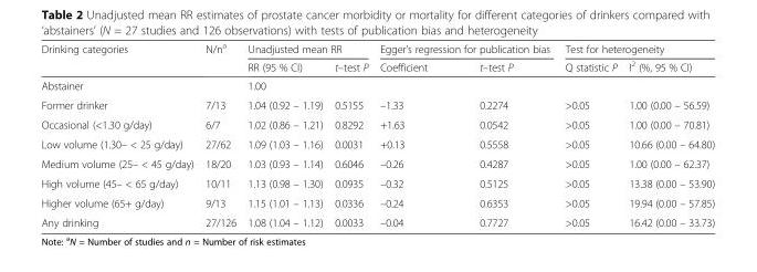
<table><thead><tr><td rowspan="2">Drinking categories</td><td rowspan="2">N/n<sup>a</sup></td><td colspan="2">Unadjusted mean RR</td><td colspan="2">Egger’s regression for publication bias</td><td colspan="2">Test for heterogeneity</td></tr><tr><td>RR (95 % CI)</td><td>t–test P</td><td>Coefficient</td><td>t–test P</td><td>Q statistic P</td><td>I<sup>2</sup> (%, 95 % CI)</td></tr></thead><tbody><tr><td>Abstainer</td><td></td><td>1.00</td><td></td><td></td><td></td><td></td><td></td></tr><tr><td>Former drinker</td><td>7/13</td><td>1.04 (0.92 – 1.19)</td><td>0.5155</td><td>–1.33</td><td>0.2274</td><td>&gt;0.05</td><td>1.00 (0.00 – 56.59)</td></tr><tr><td>Occasional (&lt;1.30 g/day)</td><td>6/7</td><td>1.02 (0.86 – 1.21)</td><td>0.8292</td><td>+1.63</td><td>0.0542</td><td>&gt;0.05</td><td>1.00 (0.00 – 70.81)</td></tr><tr><td>Low volume (1.30– &lt; 25 g/day)</td><td>27/62</td><td>1.09 (1.03 – 1.16)</td><td>0.0031</td><td>+0.13</td><td>0.5558</td><td>&gt;0.05</td><td>10.66 (0.00 – 64.80)</td></tr><tr><td>Medium volume (25– &lt; 45 g/day)</td><td>18/20</td><td>1.03 (0.93 – 1.14)</td><td>0.6046</td><td>–0.26</td><td>0.4287</td><td>&gt;0.05</td><td>1.00 (0.00 – 62.37)</td></tr><tr><td>High volume (45– &lt; 65 g/day)</td><td>10/11</td><td>1.13 (0.98 – 1.30)</td><td>0.0935</td><td>–0.32</td><td>0.5125</td><td>&gt;0.05</td><td>13.38 (0.00 – 53.90)</td></tr><tr><td>Higher volume (65+ g/day)</td><td>9/13</td><td>1.15 (1.01 – 1.13)</td><td>0.0336</td><td>–0.24</td><td>0.6353</td><td>&gt;0.05</td><td>19.94 (0.00 – 57.85)</td></tr><tr><td>Any drinking</td><td>27/126</td><td>1.08 (1.04 – 1.12)</td><td>0.0033</td><td>–0.04</td><td>0.7727</td><td>&gt;0.05</td><td>16.42 (0.00 – 33.73)</td></tr></tbody></table>